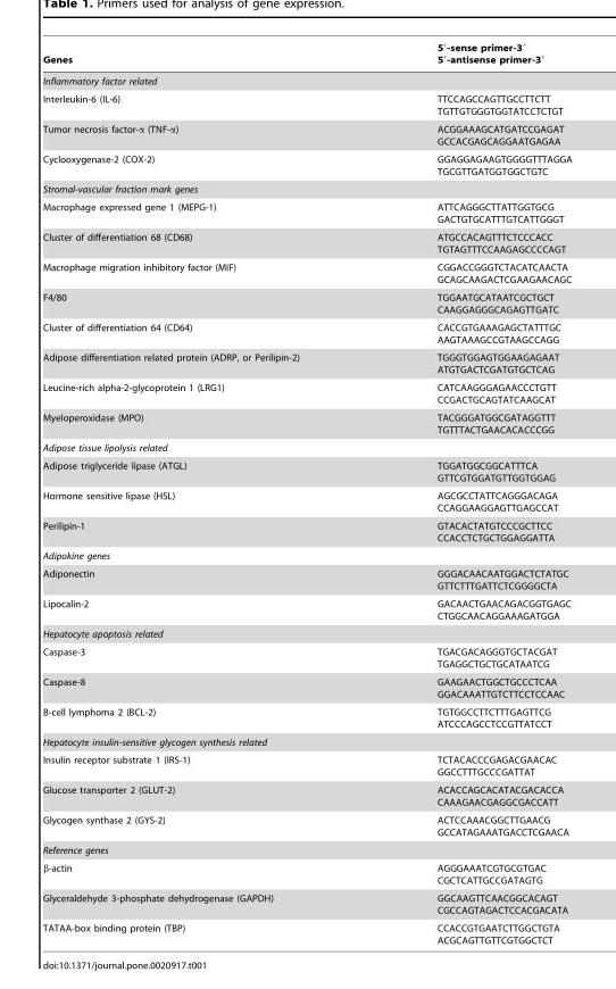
<table><thead><tr><td>Genes</td><td>5′-sense primer-3′ 5′-antisense primer-3′</td></tr></thead><tbody><tr><td colspan="2">Inflammatory factor related</td></tr><tr><td>Interleukin-6 (IL-6)</td><td>TTCCAGCCAGTTGCCTTCTT TGTTGTGGGTGGTATCCTCTGT</td></tr><tr><td>Tumor necrosis factor-α (TNF-α)</td><td>ACGGAAAGCATGATCCGAGAT GCCACGAGCAGGAATGAGAA</td></tr><tr><td>Cyclooxygenase-2 (COX-2)</td><td>GGAGGAGAAGTGGGGTTTAGGA TGCGTTGATGGTGGCTGTC</td></tr><tr><td colspan="2">Stromal-vascular fraction mark genes</td></tr><tr><td>Macrophage expressed gene 1 (MEPG-1)</td><td>ATTCAGGGCTTATTGGTGCG GACTGTGCATTTGTCATTGGGT</td></tr><tr><td>Cluster of differentiation 68 (CD68)</td><td>ATGCCACAGTTTCTCCCACC TGTAGTTTCCAAGAGCCCCAGT</td></tr><tr><td>Macrophage migration inhibitory factor (MIF)</td><td>CGGACCGGGTCTACATCAACTA GCAGCAAGACTCGAAGAACAGC</td></tr><tr><td>F4/80</td><td>TGGAATGCATAATCGCTGCT CAAGGAGGGCAGAGTTGATC</td></tr><tr><td>Cluster of differentiation 64 (CD64)</td><td>CACCGTGAAAGAGCTATTTGC AAGTAAAGCCGTAAGCCAGG</td></tr><tr><td>Adipose differentiation related protein (ADRP, or Perilipin-2)</td><td>TGGGTGGAGTGGAAGAGAAT ATGTGACTCGATGTGCTCAG</td></tr><tr><td>Leucine-rich alpha-2-glycoprotein 1 (LRG1)</td><td>CATCAAGGGAGAACCCTGTT CCGACTGCAGTATCAAGCAT</td></tr><tr><td>Myeloperoxidase (MPO)</td><td>TACGGGATGGCGATAGGTTT TGTTTACTGAACACACCCGG</td></tr><tr><td colspan="2">Adipose tissue lipolysis related</td></tr><tr><td>Adipose triglyceride lipase (ATGL)</td><td>TGGATGGCGGCATTTCA GTTCGTGGATGTTGGTGGAG</td></tr><tr><td>Hormone sensitive lipase (HSL)</td><td>AGCGCCTATTCAGGGACAGA CCAGGAAGGAGTTGAGCCAT</td></tr><tr><td>Perilipin-1</td><td>GTACACTATGTCCCGCTTCC CCACCTCTGCTGGAGGATTA</td></tr><tr><td colspan="2">Adipokine genes</td></tr><tr><td>Adiponectin</td><td>GGGACAACAATGGACTCTATGC GTTCTTTGATTCTCGGGGCTA</td></tr><tr><td>Lipocalin-2</td><td>GACAACTGAACAGACGGTGAGC CTGGCAACAGGAAAGATGGA</td></tr><tr><td colspan="2">Hepatocyte apoptosis related</td></tr><tr><td>Caspase-3</td><td>TGACGACAGGGTGCTACGAT TGAGGCTGCTGCATAATCG</td></tr><tr><td>Caspase-8</td><td>GAAGAACTGGCTGCCCTCAA GGACAAATTGTCTTCCTCCAAC</td></tr><tr><td>B-cell lymphoma 2 (BCL-2)</td><td>TGTGGCCTTCTTTGAGTTCG ATCCCAGCCTCCGTTATCCT</td></tr><tr><td colspan="2">Hepatocyte insulin-sensitive glycogen synthesis related</td></tr><tr><td>Insulin receptor substrate 1 (IRS-1)</td><td>TCTACACCCGAGACGAACAC GGCCTTTGCCCGATTAT</td></tr><tr><td>Glucose transporter 2 (GLUT-2)</td><td>ACACCAGCACATACGACACCA CAAAGAACGAGGCGACCATT</td></tr><tr><td>Glycogen synthase 2 (GYS-2)</td><td>ACTCCAAACGGCTTGAACG GCCATAGAAATGACCTCGAACA</td></tr><tr><td colspan="2">Reference genes</td></tr><tr><td>β-actin</td><td>AGGGAAATCGTGCGTGAC CGCTCATTGCCGATAGTG</td></tr><tr><td>Glyceraldehyde 3-phosphate dehydrogenase (GAPDH)</td><td>GGCAAGTTCAACGGCACAGT CGCCAGTAGACTCCACGACATA</td></tr><tr><td>TATAA-box binding protein (TBP)</td><td>CCACCGTGAATCTTGGCTGTA ACGCAGTTGTTCGTGGCTCT</td></tr></tbody></table>